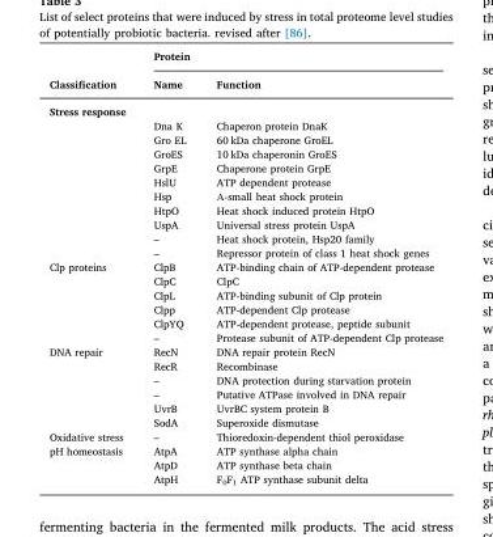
<table><thead><tr><td rowspan="2">Classification</td><td colspan="2">Protein</td></tr><tr><td>Name</td><td>Function</td></tr></thead><tbody><tr><td colspan="3">Stress response</td></tr><tr><td></td><td>Dna K</td><td>Chaperon protein DnaK</td></tr><tr><td></td><td>Gro EL</td><td>60 kDa chaperone GroEL</td></tr><tr><td></td><td>GroES</td><td>10 kDa chaperonin GroES</td></tr><tr><td></td><td>GrpE</td><td>Chaperone protein GrpE</td></tr><tr><td></td><td>HslU</td><td>ATP dependent protease</td></tr><tr><td></td><td>Hsp</td><td>Α-small heat shock protein</td></tr><tr><td></td><td>HtpO</td><td>Heat shock induced protein HtpO</td></tr><tr><td></td><td>UspA</td><td>Universal stress protein UspA</td></tr><tr><td></td><td>–</td><td>Heat shock protein, Hsp20 family</td></tr><tr><td></td><td>–</td><td>Repressor protein of class 1 heat shock genes</td></tr><tr><td rowspan="6">Clp proteins</td><td>ClpB</td><td>ATP-binding chain of ATP-dependent protease</td></tr><tr><td>ClpC</td><td>ClpC</td></tr><tr><td>ClpL</td><td>ATP-binding subunit of Clp protein</td></tr><tr><td>Clpp</td><td>ATP-dependent Clp protease</td></tr><tr><td>ClpYQ</td><td>ATP-dependent protease, peptide subunit</td></tr><tr><td>–</td><td>Protease subunit of ATP-dependent Clp protease</td></tr><tr><td rowspan="6">DNA repair</td><td>RecN</td><td>DNA repair protein RecN</td></tr><tr><td>RecR</td><td>Recombinase</td></tr><tr><td>–</td><td>DNA protection during starvation protein</td></tr><tr><td>–</td><td>Putative ATPase involved in DNA repair</td></tr><tr><td>UvrB</td><td>UvrBC system protein B</td></tr><tr><td>SodA</td><td>Superoxide dismutase</td></tr><tr><td>Oxidative stress</td><td>–</td><td>Thioredoxin-dependent thiol peroxidase</td></tr><tr><td rowspan="3">pH homeostasis</td><td>AtpA</td><td>ATP synthase alpha chain</td></tr><tr><td>AtpD</td><td>ATP synthase beta chain</td></tr><tr><td>AtpH</td><td>F0F1 ATP synthase subunit delta</td></tr></tbody></table>